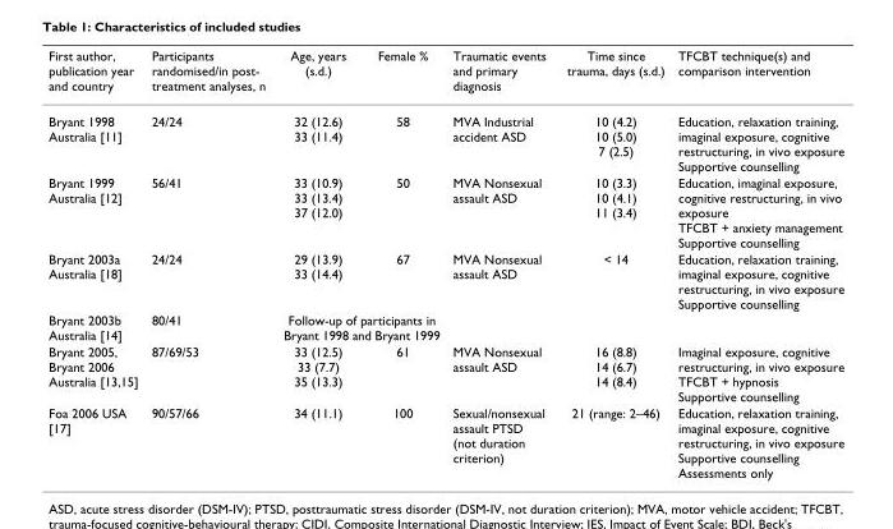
<table><thead><tr><td>First author, publication year and country</td><td>Participants randomised/in post- treatment analyses, n</td><td>Age, years (s.d.)</td><td>Female %</td><td>Traumatic events and primary diagnosis</td><td>Time since trauma, days (s.d.)</td><td>TFCBT technique(s) and comparison intervention</td></tr></thead><tbody><tr><td>Bryant 1998 Australia [11]</td><td>24/24</td><td>32 (12.6) 33 (11.4)</td><td>58</td><td>MVA Industrial accident ASD</td><td>10 (4.2) 10 (5.0) 7 (2.5)</td><td>Education, relaxation training, imaginal exposure, cognitive restructuring, in vivo exposure Supportive counselling</td></tr><tr><td>Bryant 1999 Australia [12]</td><td>56/41</td><td>33 (10.9) 33 (13.4) 37 (12.0)</td><td>50</td><td>MVA Nonsexual assault ASD</td><td>10 (3.3) 10 (4.1) 11 (3.4)</td><td>Education, imaginal exposure, cognitive restructuring, in vivo exposure TFCBT + anxiety management Supportive counselling</td></tr><tr><td>Bryant 2003a Australia [18]</td><td>24/24</td><td>29 (13.9) 33 (14.4)</td><td>67</td><td>MVA Nonsexual assault ASD</td><td>&lt; 14</td><td>Education, relaxation training, imaginal exposure, cognitive restructuring, in vivo exposure Supportive counselling</td></tr><tr><td>Bryant 2003b Australia [14]</td><td>80/41</td><td colspan="2">Follow-up of participants in Bryant 1998 and Bryant 1999</td><td></td><td></td><td></td></tr><tr><td>Bryant 2005, Bryant 2006 Australia [13,15]</td><td>87/69/53</td><td>33 (12.5) 33 (7.7) 35 (13.3)</td><td>61</td><td>MVA Nonsexual assault ASD</td><td>16 (8.8) 14 (6.7) 14 (8.4)</td><td>Imaginal exposure, cognitive restructuring, in vivo exposure TFCBT + hypnosis Supportive counselling</td></tr><tr><td>Foa 2006 USA [17]</td><td>90/57/66</td><td>34 (11.1)</td><td>100</td><td>Sexual/nonsexual assault PTSD (not duration criterion)</td><td>21 (range: 2–46)</td><td>Education, relaxation training, imaginal exposure, cognitive restructuring, in vivo exposure Supportive counselling Assessments only</td></tr></tbody></table>